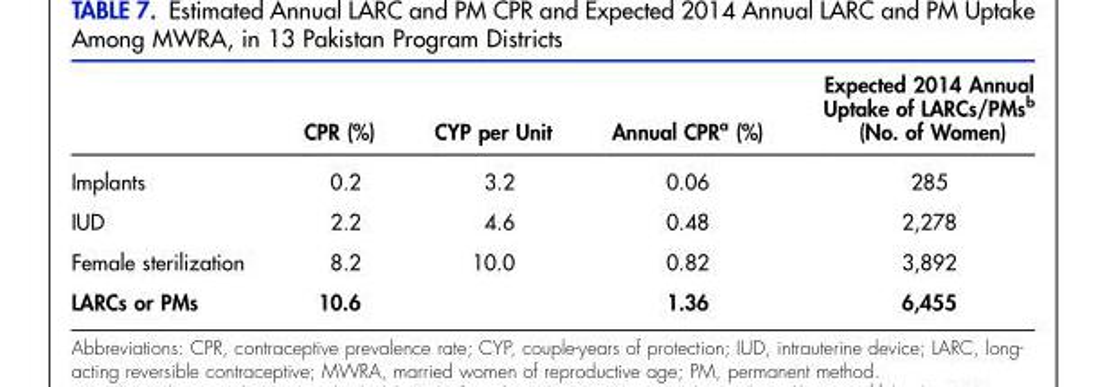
<table><thead><tr><td></td><td>CPR (%)</td><td>CYP per Unit</td><td>Annual CPR<sup>a</sup> (%)</td><td>Expected 2014 Annual Uptake of LARCs/PMs<sup>b</sup> (No. of Women)</td></tr></thead><tbody><tr><td>Implants</td><td>0.2</td><td>3.2</td><td>0.06</td><td>285</td></tr><tr><td>IUD</td><td>2.2</td><td>4.6</td><td>0.48</td><td>2,278</td></tr><tr><td>Female sterilization</td><td>8.2</td><td>10.0</td><td>0.82</td><td>3,892</td></tr><tr><td>LARCs or PMs</td><td>10.6</td><td></td><td>1.36</td><td>6,455</td></tr></tbody></table>